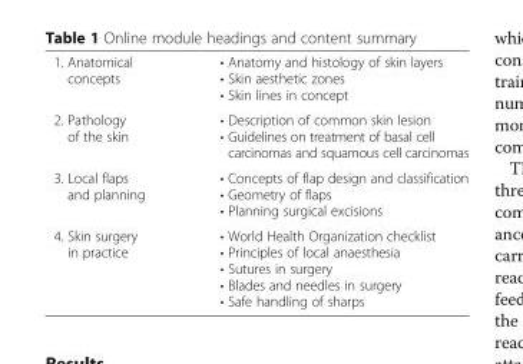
<table><tbody><tr><td>1. Anatomical concepts</td><td>• Anatomy and histology of skin layers • Skin aesthetic zones • Skin lines in concept</td></tr><tr><td>2. Pathology of the skin</td><td>• Description of common skin lesion • Guidelines on treatment of basal cell carcinomas and squamous cell carcinomas</td></tr><tr><td>3. Local flaps and planning</td><td>• Concepts of flap design and classification • Geometry of flaps • Planning surgical excisions</td></tr><tr><td>4. Skin surgery in practice</td><td>• World Health Organization checklist • Principles of local anaesthesia • Sutures in surgery • Blades and needles in surgery • Safe handling of sharps</td></tr></tbody></table>